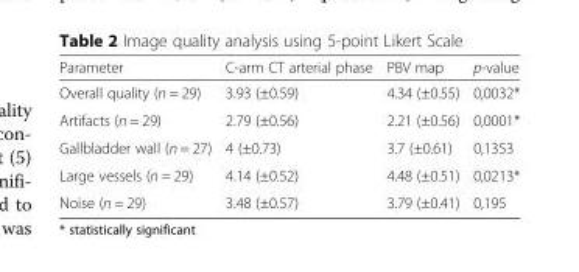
<table><thead><tr><td>Parameter</td><td>C-arm CT arterial phase</td><td>PBV map</td><td>p-value</td></tr></thead><tbody><tr><td>Overall quality (n = 29)</td><td>3.93 (±0.59)</td><td>4.34 (±0.55)</td><td>0,0032*</td></tr><tr><td>Artifacts (n = 29)</td><td>2.79 (±0.56)</td><td>2.21 (±0.56)</td><td>0,0001*</td></tr><tr><td>Gallbladder wall (n = 27)</td><td>4 (±0.73)</td><td>3.7 (±0.61)</td><td>0,1353</td></tr><tr><td>Large vessels (n = 29)</td><td>4.14 (±0.52)</td><td>4.48 (±0.51)</td><td>0,0213*</td></tr><tr><td>Noise (n = 29)</td><td>3.48 (±0.57)</td><td>3.79 (±0.41)</td><td>0,195</td></tr></tbody></table>